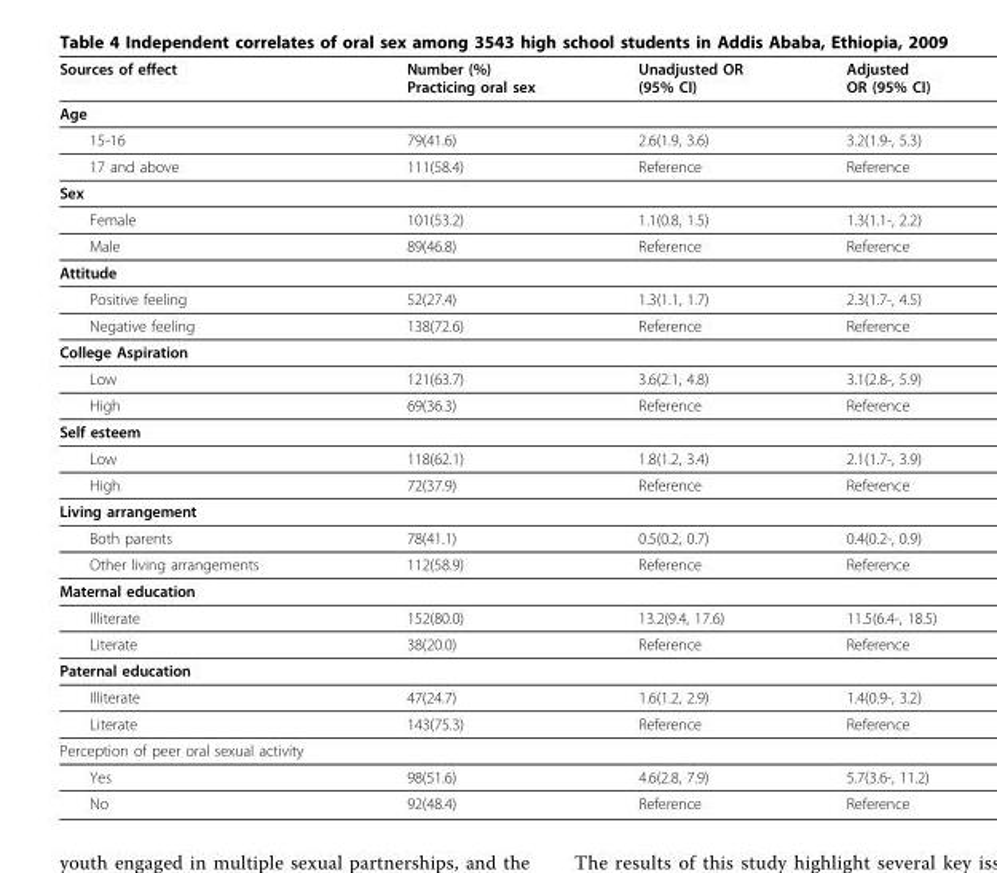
<table><thead><tr><td>Sources of effect</td><td>Number (%) Practicing oral sex</td><td>Unadjusted OR (95% CI)</td><td>Adjusted OR (95% CI)</td></tr></thead><tbody><tr><td colspan="4">Age</td></tr><tr><td>15-16</td><td>79(41.6)</td><td>2.6(1.9, 3.6)</td><td>3.2(1.9-, 5.3)</td></tr><tr><td>17 and above</td><td>111(58.4)</td><td>Reference</td><td>Reference</td></tr><tr><td colspan="4">Sex</td></tr><tr><td>Female</td><td>101(53.2)</td><td>1.1(0.8, 1.5)</td><td>1.3(1.1-, 2.2)</td></tr><tr><td>Male</td><td>89(46.8)</td><td>Reference</td><td>Reference</td></tr><tr><td colspan="4">Attitude</td></tr><tr><td>Positive feeling</td><td>52(27.4)</td><td>1.3(1.1, 1.7)</td><td>2.3(1.7-, 4.5)</td></tr><tr><td>Negative feeling</td><td>138(72.6)</td><td>Reference</td><td>Reference</td></tr><tr><td colspan="4">College Aspiration</td></tr><tr><td>Low</td><td>121(63.7)</td><td>3.6(2.1, 4.8)</td><td>3.1(2.8-, 5.9)</td></tr><tr><td>High</td><td>69(36.3)</td><td>Reference</td><td>Reference</td></tr><tr><td colspan="4">Self esteem</td></tr><tr><td>Low</td><td>118(62.1)</td><td>1.8(1.2, 3.4)</td><td>2.1(1.7-, 3.9)</td></tr><tr><td>High</td><td>72(37.9)</td><td>Reference</td><td>Reference</td></tr><tr><td colspan="4">Living arrangement</td></tr><tr><td>Both parents</td><td>78(41.1)</td><td>0.5(0.2, 0.7)</td><td>0.4(0.2-, 0.9)</td></tr><tr><td>Other living arrangements</td><td>112(58.9)</td><td>Reference</td><td>Reference</td></tr><tr><td colspan="4">Maternal education</td></tr><tr><td>Illiterate</td><td>152(80.0)</td><td>13.2(9.4, 17.6)</td><td>11.5(6.4-, 18.5)</td></tr><tr><td>Literate</td><td>38(20.0)</td><td>Reference</td><td>Reference</td></tr><tr><td colspan="4">Paternal education</td></tr><tr><td>Illiterate</td><td>47(24.7)</td><td>1.6(1.2, 2.9)</td><td>1.4(0.9-, 3.2)</td></tr><tr><td>Literate</td><td>143(75.3)</td><td>Reference</td><td>Reference</td></tr><tr><td colspan="4">Perception of peer oral sexual activity</td></tr><tr><td>Yes</td><td>98(51.6)</td><td>4.6(2.8, 7.9)</td><td>5.7(3.6-, 11.2)</td></tr><tr><td>No</td><td>92(48.4)</td><td>Reference</td><td>Reference</td></tr></tbody></table>